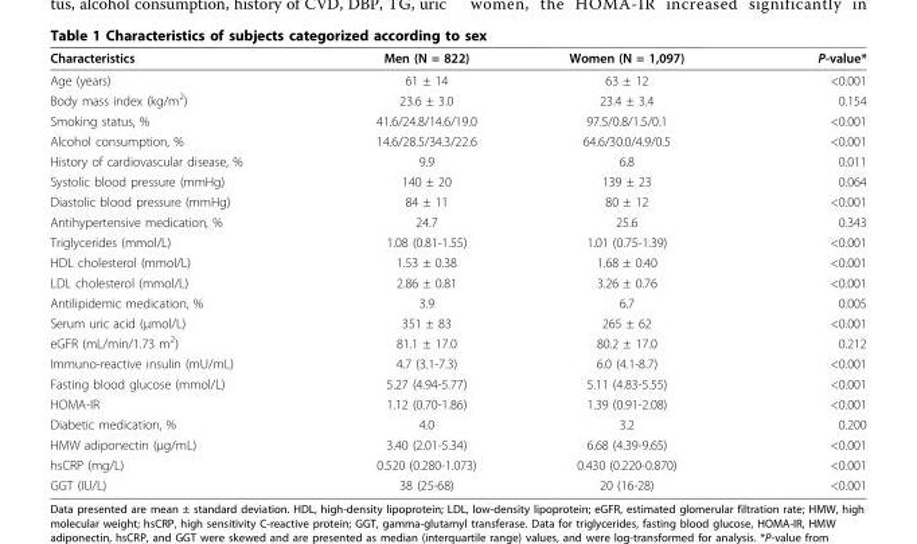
<table><thead><tr><td>Characteristics</td><td>Men (N = 822)</td><td>Women (N = 1,097)</td><td>P-value*</td></tr></thead><tbody><tr><td>Age (years)</td><td>61 ± 14</td><td>63 ± 12</td><td>&lt;0.001</td></tr><tr><td>Body mass index (kg/m<sup>2</sup>)</td><td>23.6 ± 3.0</td><td>23.4 ± 3.4</td><td>0.154</td></tr><tr><td>Smoking status, %</td><td>41.6/24.8/14.6/19.0</td><td>97.5/0.8/1.5/0.1</td><td>&lt;0.001</td></tr><tr><td>Alcohol consumption, %</td><td>14.6/28.5/34.3/22.6</td><td>64.6/30.0/4.9/0.5</td><td>&lt;0.001</td></tr><tr><td>History of cardiovascular disease, %</td><td>9.9</td><td>6.8</td><td>0.011</td></tr><tr><td>Systolic blood pressure (mmHg)</td><td>140 ± 20</td><td>139 ± 23</td><td>0.064</td></tr><tr><td>Diastolic blood pressure (mmHg)</td><td>84 ± 11</td><td>80 ± 12</td><td>&lt;0.001</td></tr><tr><td>Antihypertensive medication, %</td><td>24.7</td><td>25.6</td><td>0.343</td></tr><tr><td>Triglycerides (mmol/L)</td><td>1.08 (0.81-1.55)</td><td>1.01 (0.75-1.39)</td><td>&lt;0.001</td></tr><tr><td>HDL cholesterol (mmol/L)</td><td>1.53 ± 0.38</td><td>1.68 ± 0.40</td><td>&lt;0.001</td></tr><tr><td>LDL cholesterol (mmol/L)</td><td>2.86 ± 0.81</td><td>3.26 ± 0.76</td><td>&lt;0.001</td></tr><tr><td>Antilipidemic medication, %</td><td>3.9</td><td>6.7</td><td>0.005</td></tr><tr><td>Serum uric acid (μmol/L)</td><td>351 ± 83</td><td>265 ± 62</td><td>&lt;0.001</td></tr><tr><td>eGFR (mL/min/1.73 m<sup>2</sup>)</td><td>81.1 ± 17.0</td><td>80.2 ± 17.0</td><td>0.212</td></tr><tr><td>Immuno-reactive insulin (mU/mL)</td><td>4.7 (3.1-7.3)</td><td>6.0 (4.1-8.7)</td><td>&lt;0.001</td></tr><tr><td>Fasting blood glucose (mmol/L)</td><td>5.27 (4.94-5.77)</td><td>5.11 (4.83-5.55)</td><td>&lt;0.001</td></tr><tr><td>HOMA-IR</td><td>1.12 (0.70-1.86)</td><td>1.39 (0.91-2.08)</td><td>&lt;0.001</td></tr><tr><td>Diabetic medication, %</td><td>4.0</td><td>3.2</td><td>0.200</td></tr><tr><td>HMW adiponectin (μg/mL)</td><td>3.40 (2.01-5.34)</td><td>6.68 (4.39-9.65)</td><td>&lt;0.001</td></tr><tr><td>hsCRP (mg/L)</td><td>0.520 (0.280-1.073)</td><td>0.430 (0.220-0.870)</td><td>&lt;0.001</td></tr><tr><td>GGT (IU/L)</td><td>38 (25-68)</td><td>20 (16-28)</td><td>&lt;0.001</td></tr></tbody></table>